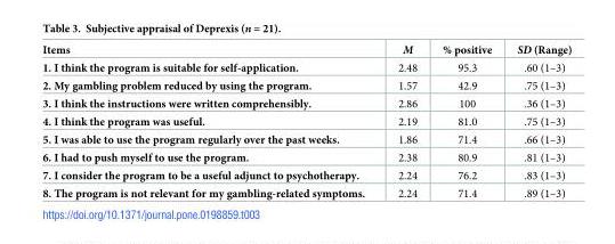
<table><thead><tr><td>Items</td><td>M</td><td>% positive</td><td>SD (Range)</td></tr></thead><tbody><tr><td>1. I think the program is suitable for self-application.</td><td>2.48</td><td>95.3</td><td>.60 (1–3)</td></tr><tr><td>2. My gambling problem reduced by using the program.</td><td>1.57</td><td>42.9</td><td>.75 (1–3)</td></tr><tr><td>3. I think the instructions were written comprehensibly.</td><td>2.86</td><td>100</td><td>.36 (1–3)</td></tr><tr><td>4. I think the program was useful.</td><td>2.19</td><td>81.0</td><td>.75 (1–3)</td></tr><tr><td>5. I was able to use the program regularly over the past weeks.</td><td>1.86</td><td>71.4</td><td>.66 (1–3)</td></tr><tr><td>6. I had to push myself to use the program.</td><td>2.38</td><td>80.9</td><td>.81 (1–3)</td></tr><tr><td>7. I consider the program to be a useful adjunct to psychotherapy.</td><td>2.24</td><td>76.2</td><td>.83 (1–3)</td></tr><tr><td>8. The program is not relevant for my gambling-related symptoms.</td><td>2.24</td><td>71.4</td><td>.89 (1–3)</td></tr></tbody></table>